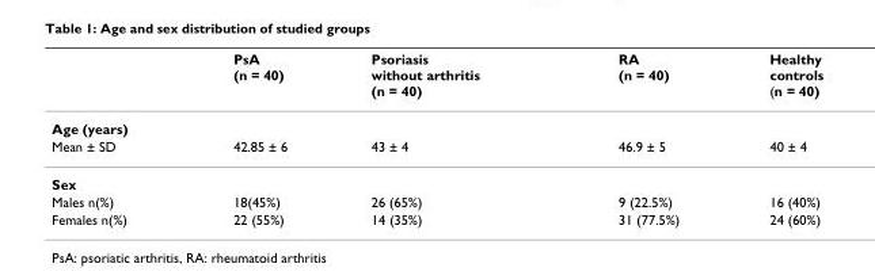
<table><thead><tr><td></td><td>PsA (n = 40)</td><td>Psoriasis without arthritis (n = 40)</td><td>RA (n = 40)</td><td>Healthy controls (n = 40)</td></tr></thead><tbody><tr><td colspan="5">Age (years)</td></tr><tr><td>Mean ± SD</td><td>42.85 ± 6</td><td>43 ± 4</td><td>46.9 ± 5</td><td>40 ± 4</td></tr><tr><td colspan="5">Sex</td></tr><tr><td>Males n(%)</td><td>18(45%)</td><td>26 (65%)</td><td>9 (22.5%)</td><td>16 (40%)</td></tr><tr><td>Females n(%)</td><td>22 (55%)</td><td>14 (35%)</td><td>31 (77.5%)</td><td>24 (60%)</td></tr></tbody></table>